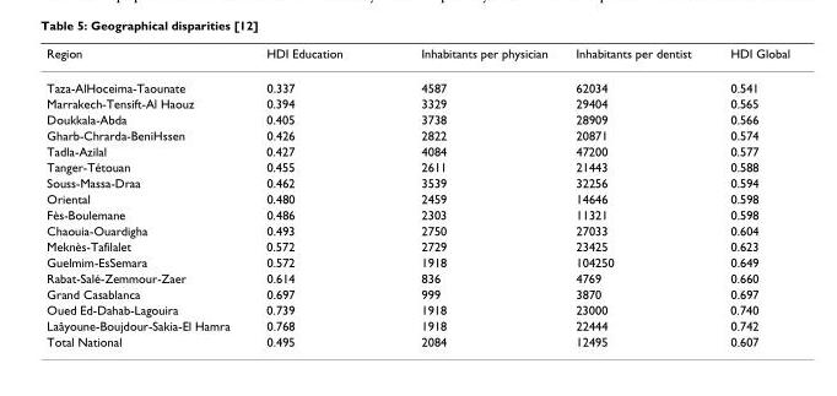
<table><thead><tr><td>Region</td><td>HDI Education</td><td>Inhabitants per physician</td><td>Inhabitants per dentist</td><td>HDI Global</td></tr></thead><tbody><tr><td>Taza-AlHoceima-Taounate</td><td>0.337</td><td>4587</td><td>62034</td><td>0.541</td></tr><tr><td>Marrakech-Tensift-Al Haouz</td><td>0.394</td><td>3329</td><td>29404</td><td>0.565</td></tr><tr><td>Doukkala-Abda</td><td>0.405</td><td>3738</td><td>28909</td><td>0.566</td></tr><tr><td>Gharb-Chrarda-BeniHssen</td><td>0.426</td><td>2822</td><td>20871</td><td>0.574</td></tr><tr><td>Tadla-Azilal</td><td>0.427</td><td>4084</td><td>47200</td><td>0.577</td></tr><tr><td>Tanger-Tétouan</td><td>0.455</td><td>2611</td><td>21443</td><td>0.588</td></tr><tr><td>Souss-Massa-Draa</td><td>0.462</td><td>3539</td><td>32256</td><td>0.594</td></tr><tr><td>Oriental</td><td>0.480</td><td>2459</td><td>14646</td><td>0.598</td></tr><tr><td>Fès-Boulemane</td><td>0.486</td><td>2303</td><td>11321</td><td>0.598</td></tr><tr><td>Chaouia-Ouardigha</td><td>0.493</td><td>2750</td><td>27033</td><td>0.604</td></tr><tr><td>Meknès-Tafilalet</td><td>0.572</td><td>2729</td><td>23425</td><td>0.623</td></tr><tr><td>Guelmim-EsSemara</td><td>0.572</td><td>1918</td><td>104250</td><td>0.649</td></tr><tr><td>Rabat-Salé-Zemmour-Zaer</td><td>0.614</td><td>836</td><td>4769</td><td>0.660</td></tr><tr><td>Grand Casablanca</td><td>0.697</td><td>999</td><td>3870</td><td>0.697</td></tr><tr><td>Oued Ed-Dahab-Lagouira</td><td>0.739</td><td>1918</td><td>23000</td><td>0.740</td></tr><tr><td>Laâyoune-Boujdour-Sakia-El Hamra</td><td>0.768</td><td>1918</td><td>22444</td><td>0.742</td></tr><tr><td>Total National</td><td>0.495</td><td>2084</td><td>12495</td><td>0.607</td></tr></tbody></table>